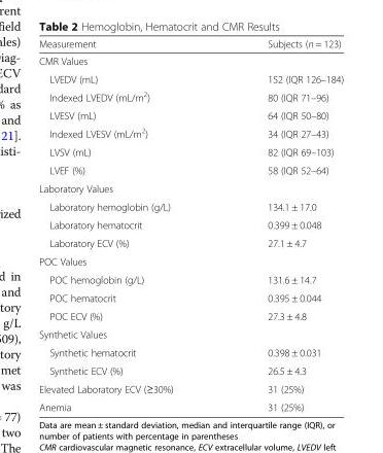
<table><thead><tr><td>Measurement</td><td>Subjects (n = 123)</td></tr></thead><tbody><tr><td colspan="2">CMR Values</td></tr><tr><td>LVEDV (mL)</td><td>152 (IQR 126–184)</td></tr><tr><td>Indexed LVEDV (mL/m<sup>2</sup>)</td><td>80 (IQR 71–96)</td></tr><tr><td>LVESV (mL)</td><td>64 (IQR 50–80)</td></tr><tr><td>Indexed LVESV (mL/m<sup>2</sup>)</td><td>34 (IQR 27–43)</td></tr><tr><td>LVSV (mL)</td><td>82 (IQR 69–103)</td></tr><tr><td>LVEF (%)</td><td>58 (IQR 52–64)</td></tr><tr><td colspan="2">Laboratory Values</td></tr><tr><td>Laboratory hemoglobin (g/L)</td><td>134.1 ± 17.0</td></tr><tr><td>Laboratory hematocrit</td><td>0.399 ± 0.048</td></tr><tr><td>Laboratory ECV (%)</td><td>27.1 ± 4.7</td></tr><tr><td colspan="2">POC Values</td></tr><tr><td>POC hemoglobin (g/L)</td><td>131.6 ± 14.7</td></tr><tr><td>POC hematocrit</td><td>0.395 ± 0.044</td></tr><tr><td>POC ECV (%)</td><td>27.3 ± 4.8</td></tr><tr><td colspan="2">Synthetic Values</td></tr><tr><td>Synthetic hematocrit</td><td>0.398 ± 0.031</td></tr><tr><td>Synthetic ECV (%)</td><td>26.5 ± 4.3</td></tr><tr><td>Elevated Laboratory ECV (≥30%)</td><td>31 (25%)</td></tr><tr><td>Anemia</td><td>31 (25%)</td></tr></tbody></table>